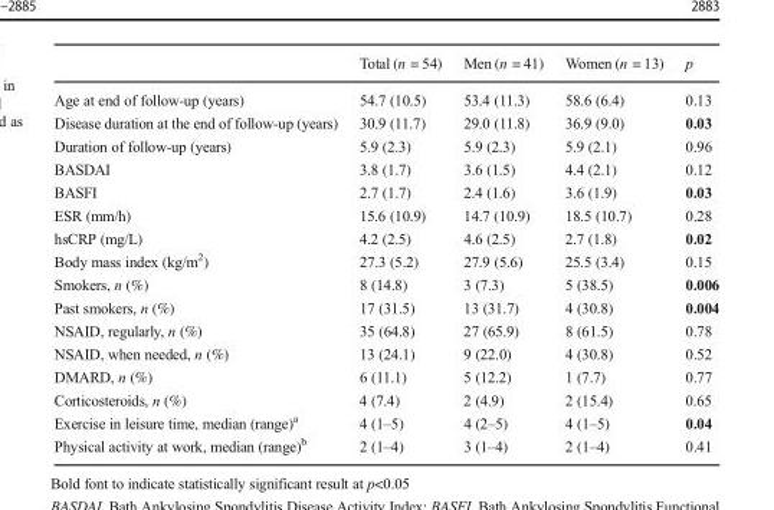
<table><thead><tr><td></td><td>Total (n = 54)</td><td>Men (n = 41)</td><td>Women (n = 13)</td><td>p</td></tr></thead><tbody><tr><td>Age at end of follow-up (years)</td><td>54.7 (10.5)</td><td>53.4 (11.3)</td><td>58.6 (6.4)</td><td>0.13</td></tr><tr><td>Disease duration at the end of follow-up (years)</td><td>30.9 (11.7)</td><td>29.0 (11.8)</td><td>36.9 (9.0)</td><td>0.03</td></tr><tr><td>Duration of follow-up (years)</td><td>5.9 (2.3)</td><td>5.9 (2.3)</td><td>5.9 (2.1)</td><td>0.96</td></tr><tr><td>BASDAI</td><td>3.8 (1.7)</td><td>3.6 (1.5)</td><td>4.4 (2.1)</td><td>0.12</td></tr><tr><td>BASFI</td><td>2.7 (1.7)</td><td>2.4 (1.6)</td><td>3.6 (1.9)</td><td>0.03</td></tr><tr><td>ESR (mm/h)</td><td>15.6 (10.9)</td><td>14.7 (10.9)</td><td>18.5 (10.7)</td><td>0.28</td></tr><tr><td>hsCRP (mg/L)</td><td>4.2 (2.5)</td><td>4.6 (2.5)</td><td>2.7 (1.8)</td><td>0.02</td></tr><tr><td>Body mass index (kg/m<sup>2</sup>)</td><td>27.3 (5.2)</td><td>27.9 (5.6)</td><td>25.5 (3.4)</td><td>0.15</td></tr><tr><td>Smokers, n (%)</td><td>8 (14.8)</td><td>3 (7.3)</td><td>5 (38.5)</td><td>0.006</td></tr><tr><td>Past smokers, n (%)</td><td>17 (31.5)</td><td>13 (31.7)</td><td>4 (30.8)</td><td>0.004</td></tr><tr><td>NSAID, regularly, n (%)</td><td>35 (64.8)</td><td>27 (65.9)</td><td>8 (61.5)</td><td>0.78</td></tr><tr><td>NSAID, when needed, n (%)</td><td>13 (24.1)</td><td>9 (22.0)</td><td>4 (30.8)</td><td>0.52</td></tr><tr><td>DMARD, n (%)</td><td>6 (11.1)</td><td>5 (12.2)</td><td>1 (7.7)</td><td>0.77</td></tr><tr><td>Corticosteroids, n (%)</td><td>4 (7.4)</td><td>2 (4.9)</td><td>2 (15.4)</td><td>0.65</td></tr><tr><td>Exercise in leisure time, median (range)<sup>a</sup></td><td>4 (1–5)</td><td>4 (2–5)</td><td>4 (1–5)</td><td>0.04</td></tr><tr><td>Physical activity at work, median (range)<sup>b</sup></td><td>2 (1–4)</td><td>3 (1–4)</td><td>2 (1–4)</td><td>0.41</td></tr></tbody></table>